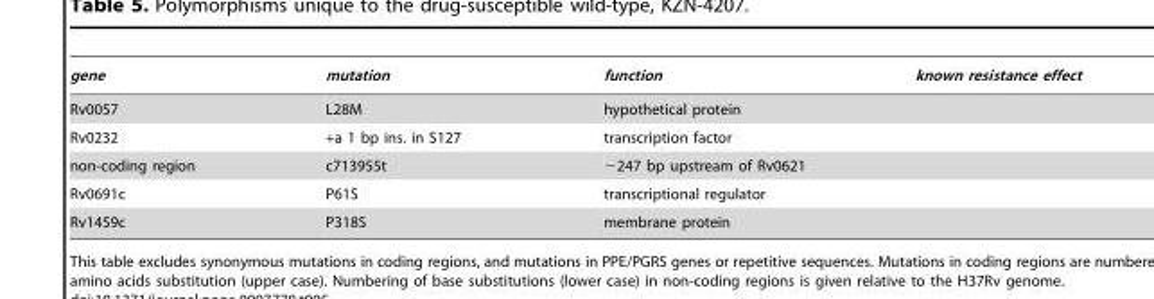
<table><thead><tr><td>gene</td><td>mutation</td><td>function</td><td>known resistance effect</td></tr></thead><tbody><tr><td>Rv0057</td><td>L28M</td><td>hypothetical protein</td><td></td></tr><tr><td>Rv0232</td><td>+a 1 bp ins. in S127</td><td>transcription factor</td><td></td></tr><tr><td>non-coding region</td><td>c713955t</td><td>−247 bp upstream of Rv0621</td><td></td></tr><tr><td>Rv0691c</td><td>P61S</td><td>transcriptional regulator</td><td></td></tr><tr><td>Rv1459c</td><td>P318S</td><td>membrane protein</td><td></td></tr></tbody></table>